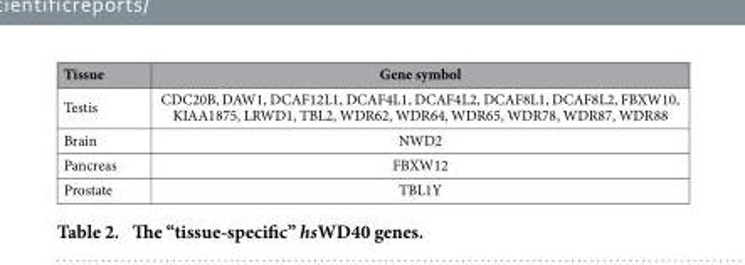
<table><thead><tr><td>Tissue</td><td>Gene symbol</td></tr></thead><tbody><tr><td>Testis</td><td>CDC20B, DAW1, DCAF12L1, DCAF4L1, DCAF4L2, DCAF8L1, DCAF8L2, FBXW10, KIAA1875, LRWD1, TBL2, WDR62, WDR64, WDR65, WDR78, WDR87, WDR88</td></tr><tr><td>Brain</td><td>NWD2</td></tr><tr><td>Pancreas</td><td>FBXW12</td></tr><tr><td>Prostate</td><td>TBL1Y</td></tr></tbody></table>